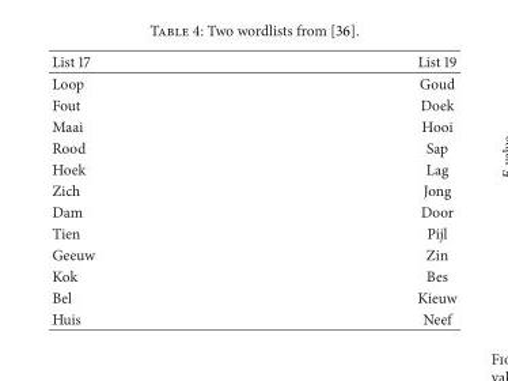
<table><thead><tr><td>List 17</td><td>List 19</td></tr></thead><tbody><tr><td>Loop</td><td>Goud</td></tr><tr><td>Fout</td><td>Doek</td></tr><tr><td>Maai</td><td>Hooi</td></tr><tr><td>Rood</td><td>Sap</td></tr><tr><td>Hoek</td><td>Lag</td></tr><tr><td>Zich</td><td>Jong</td></tr><tr><td>Dam</td><td>Door</td></tr><tr><td>Tien</td><td>Pijl</td></tr><tr><td>Geeuw</td><td>Zin</td></tr><tr><td>Kok</td><td>Bes</td></tr><tr><td>Bel</td><td>Kieuw</td></tr><tr><td>Huis</td><td>Neef</td></tr></tbody></table>